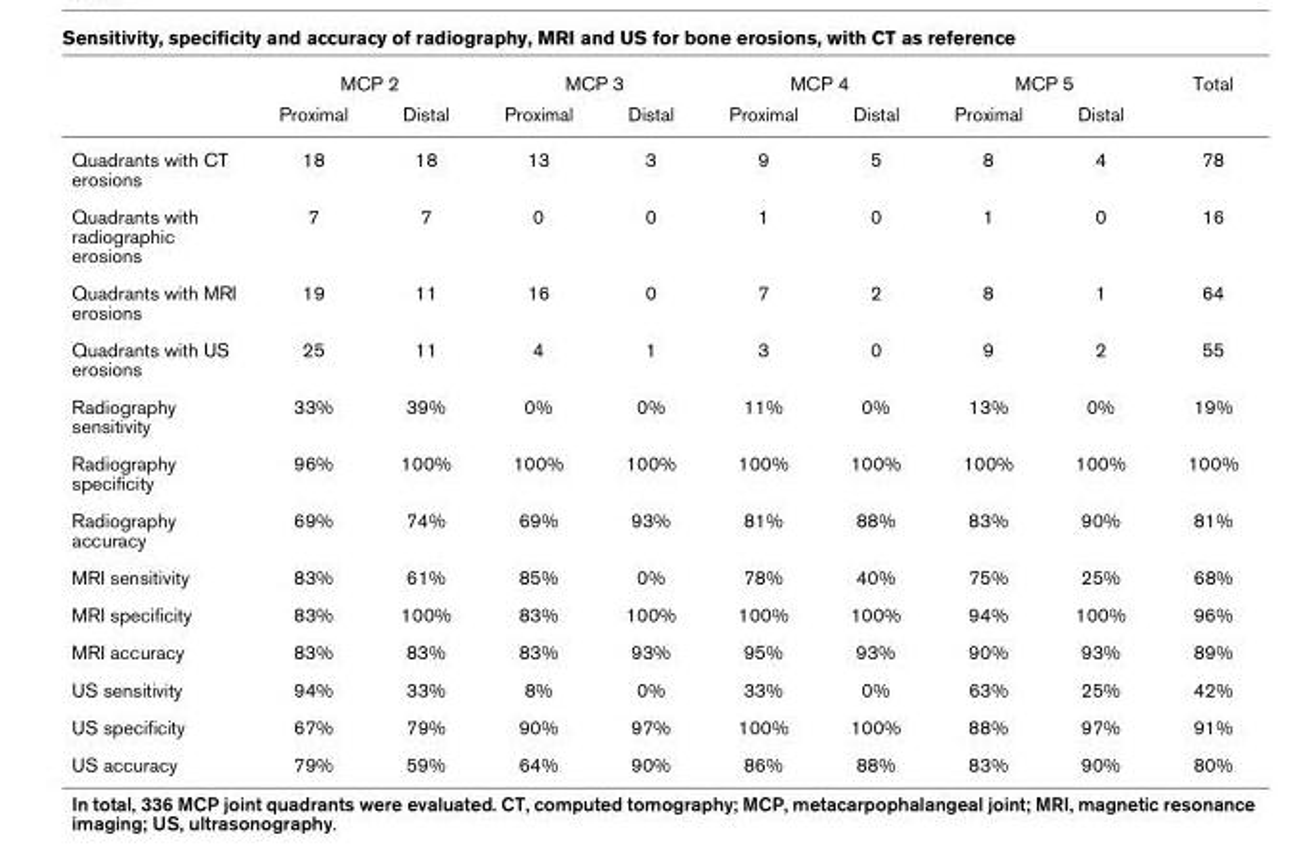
<table><thead><tr><td rowspan="2"></td><td colspan="2">MCP 2</td><td colspan="2">MCP 3</td><td colspan="2">MCP 4</td><td colspan="2">MCP 5</td><td rowspan="2">Total</td></tr><tr><td>Proximal</td><td>Distal</td><td>Proximal</td><td>Distal</td><td>Proximal</td><td>Distal</td><td>Proximal</td><td>Distal</td></tr></thead><tbody><tr><td>Quadrants with CT erosions</td><td>18</td><td>18</td><td>13</td><td>3</td><td>9</td><td>5</td><td>8</td><td>4</td><td>78</td></tr><tr><td>Quadrants with radiographic erosions</td><td>7</td><td>7</td><td>0</td><td>0</td><td>1</td><td>0</td><td>1</td><td>0</td><td>16</td></tr><tr><td>Quadrants with MRI erosions</td><td>19</td><td>11</td><td>16</td><td>0</td><td>7</td><td>2</td><td>8</td><td>1</td><td>64</td></tr><tr><td>Quadrants with US erosions</td><td>25</td><td>11</td><td>4</td><td>1</td><td>3</td><td>0</td><td>9</td><td>2</td><td>55</td></tr><tr><td>Radiography sensitivity</td><td>33%</td><td>39%</td><td>0%</td><td>0%</td><td>11%</td><td>0%</td><td>13%</td><td>0%</td><td>19%</td></tr><tr><td>Radiography specificity</td><td>96%</td><td>100%</td><td>100%</td><td>100%</td><td>100%</td><td>100%</td><td>100%</td><td>100%</td><td>100%</td></tr><tr><td>Radiography accuracy</td><td>69%</td><td>74%</td><td>69%</td><td>93%</td><td>81%</td><td>88%</td><td>83%</td><td>90%</td><td>81%</td></tr><tr><td>MRI sensitivity</td><td>83%</td><td>61%</td><td>85%</td><td>0%</td><td>78%</td><td>40%</td><td>75%</td><td>25%</td><td>68%</td></tr><tr><td>MRI specificity</td><td>83%</td><td>100%</td><td>83%</td><td>100%</td><td>100%</td><td>100%</td><td>94%</td><td>100%</td><td>96%</td></tr><tr><td>MRI accuracy</td><td>83%</td><td>83%</td><td>83%</td><td>93%</td><td>95%</td><td>93%</td><td>90%</td><td>93%</td><td>89%</td></tr><tr><td>US sensitivity</td><td>94%</td><td>33%</td><td>8%</td><td>0%</td><td>33%</td><td>0%</td><td>63%</td><td>25%</td><td>42%</td></tr><tr><td>US specificity</td><td>67%</td><td>79%</td><td>90%</td><td>97%</td><td>100%</td><td>100%</td><td>88%</td><td>97%</td><td>91%</td></tr><tr><td>US accuracy</td><td>79%</td><td>59%</td><td>64%</td><td>90%</td><td>86%</td><td>88%</td><td>83%</td><td>90%</td><td>80%</td></tr></tbody></table>